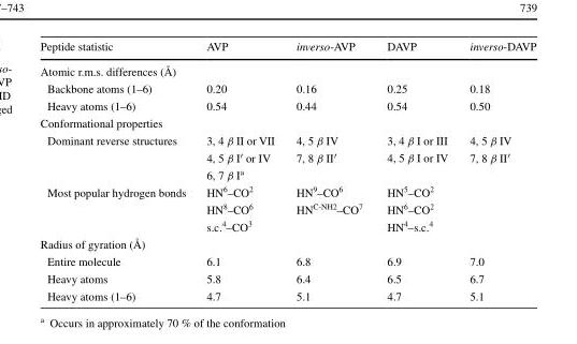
<table><thead><tr><td>Peptide statistic</td><td>AVP</td><td>inverso-AVP</td><td>DAVP</td><td>inverso-DAVP</td></tr></thead><tbody><tr><td colspan="5">Atomic r.m.s. differences (Å)</td></tr><tr><td>Backbone atoms (1–6)</td><td>0.20</td><td>0.16</td><td>0.25</td><td>0.18</td></tr><tr><td>Heavy atoms (1–6)</td><td>0.54</td><td>0.44</td><td>0.54</td><td>0.50</td></tr><tr><td colspan="5">Conformational properties</td></tr><tr><td rowspan="3">Dominant reverse structures</td><td>3, 4 β II or VII</td><td>4, 5 β IV</td><td>3, 4 β I or III</td><td>4, 5 β IV</td></tr><tr><td>4, 5 β I′ or IV</td><td>7, 8 β II′</td><td>4, 5 β I or IV</td><td>7, 8 β II′</td></tr><tr><td colspan="4">6, 7 β I<sup>a</sup></td></tr><tr><td rowspan="3">Most popular hydrogen bonds</td><td>HN<sup>6</sup>–CO<sup>2</sup></td><td>HN<sup>9</sup>–CO<sup>6</sup></td><td colspan="2">HN<sup>5</sup>–CO<sup>2</sup></td></tr><tr><td>HN<sup>8</sup>–CO<sup>6</sup></td><td>HN<sup>C-NH2</sup>–CO<sup>7</sup></td><td colspan="2">HN<sup>6</sup>–CO<sup>2</sup></td></tr><tr><td colspan="2">s.c.<sup>4</sup>–CO<sup>3</sup></td><td colspan="2">HN<sup>4</sup>–s.c.<sup>4</sup></td></tr><tr><td colspan="5">Radius of gyration (Å)</td></tr><tr><td>Entire molecule</td><td>6.1</td><td>6.8</td><td>6.9</td><td>7.0</td></tr><tr><td>Heavy atoms</td><td>5.8</td><td>6.4</td><td>6.5</td><td>6.7</td></tr><tr><td>Heavy atoms (1–6)</td><td>4.7</td><td>5.1</td><td>4.7</td><td>5.1</td></tr></tbody></table>